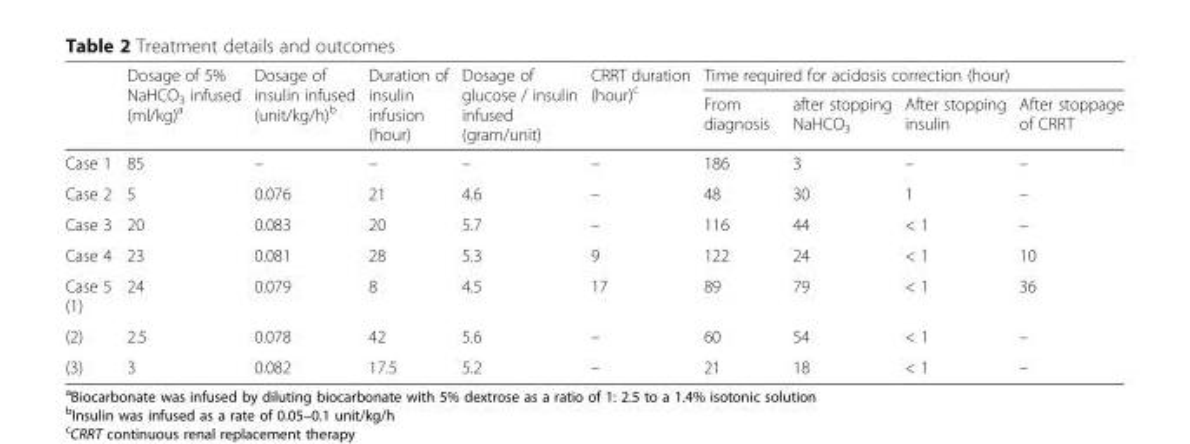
<table><thead><tr><td rowspan="2"></td><td rowspan="2">Dosage of 5% NaHCO<sub>3</sub> infused (ml/kg)<sup>a</sup></td><td rowspan="2">Dosage of insulin infused (unit/kg/h)<sup>b</sup></td><td rowspan="2">Duration of insulin infusion (hour)</td><td rowspan="2">Dosage of glucose / insulin infused (gram/unit)</td><td rowspan="2">CRRT duration (hour)<sup>c</sup></td><td colspan="4">Time required for acidosis correction (hour)</td></tr><tr><td>From diagnosis</td><td>after stopping NaHCO<sub>3</sub></td><td>After stopping insulin</td><td>After stoppage of CRRT</td></tr></thead><tbody><tr><td>Case 1</td><td>85</td><td>–</td><td>–</td><td>–</td><td>–</td><td>186</td><td>3</td><td>–</td><td>–</td></tr><tr><td>Case 2</td><td>5</td><td>0.076</td><td>21</td><td>4.6</td><td>–</td><td>48</td><td>30</td><td>1</td><td>–</td></tr><tr><td>Case 3</td><td>20</td><td>0.083</td><td>20</td><td>5.7</td><td>–</td><td>116</td><td>44</td><td>&lt; 1</td><td>–</td></tr><tr><td>Case 4</td><td>23</td><td>0.081</td><td>28</td><td>5.3</td><td>9</td><td>122</td><td>24</td><td>&lt; 1</td><td>10</td></tr><tr><td>Case 5 (1)</td><td>24</td><td>0.079</td><td>8</td><td>4.5</td><td>17</td><td>89</td><td>79</td><td>&lt; 1</td><td>36</td></tr><tr><td>(2)</td><td>2.5</td><td>0.078</td><td>42</td><td>5.6</td><td>–</td><td>60</td><td>54</td><td>&lt; 1</td><td>–</td></tr><tr><td>(3)</td><td>3</td><td>0.082</td><td>17.5</td><td>5.2</td><td>–</td><td>21</td><td>18</td><td>&lt; 1</td><td>–</td></tr></tbody></table>